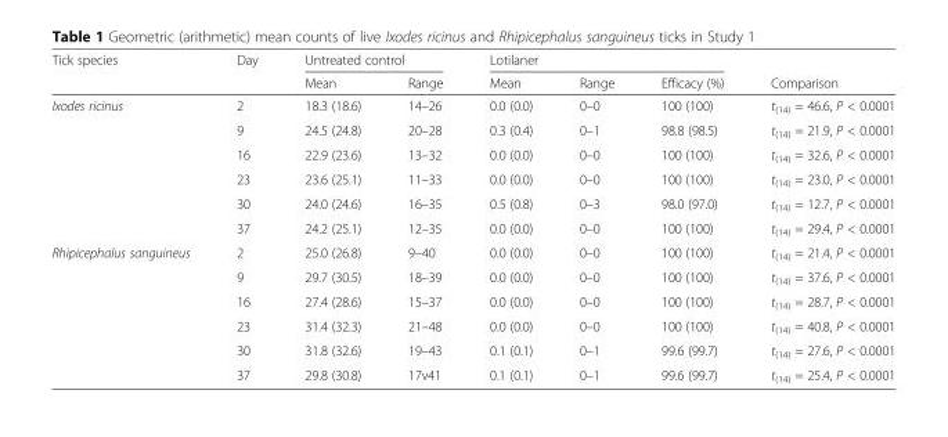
<table><thead><tr><td rowspan="2">Tick species</td><td rowspan="2">Day</td><td colspan="2">Untreated control</td><td colspan="3">Lotilaner</td><td rowspan="2">Comparison</td></tr><tr><td>Mean</td><td>Range</td><td>Mean</td><td>Range</td><td>Efficacy (%)</td></tr></thead><tbody><tr><td rowspan="6">Ixodes ricinus</td><td>2</td><td>18.3 (18.6)</td><td>14–26</td><td>0.0 (0.0)</td><td>0–0</td><td>100 (100)</td><td>t<sub>(14)</sub> = 46.6, P &lt; 0.0001</td></tr><tr><td>9</td><td>24.5 (24.8)</td><td>20–28</td><td>0.3 (0.4)</td><td>0–1</td><td>98.8 (98.5)</td><td>t<sub>(14)</sub> = 21.9, P &lt; 0.0001</td></tr><tr><td>16</td><td>22.9 (23.6)</td><td>13–32</td><td>0.0 (0.0)</td><td>0–0</td><td>100 (100)</td><td>t<sub>(14)</sub> = 32.6, P &lt; 0.0001</td></tr><tr><td>23</td><td>23.6 (25.1)</td><td>11–33</td><td>0.0 (0.0)</td><td>0–0</td><td>100 (100)</td><td>t<sub>(14)</sub> = 23.0, P &lt; 0.0001</td></tr><tr><td>30</td><td>24.0 (24.6)</td><td>16–35</td><td>0.5 (0.8)</td><td>0–3</td><td>98.0 (97.0)</td><td>t<sub>(14)</sub> = 12.7, P &lt; 0.0001</td></tr><tr><td>37</td><td>24.2 (25.1)</td><td>12–35</td><td>0.0 (0.0)</td><td>0–0</td><td>100 (100)</td><td>t<sub>(14)</sub> = 29.4, P &lt; 0.0001</td></tr><tr><td rowspan="6">Rhipicephalus sanguineus</td><td>2</td><td>25.0 (26.8)</td><td>9–40</td><td>0.0 (0.0)</td><td>0–0</td><td>100 (100)</td><td>t<sub>(14)</sub> = 21.4, P &lt; 0.0001</td></tr><tr><td>9</td><td>29.7 (30.5)</td><td>18–39</td><td>0.0 (0.0)</td><td>0–0</td><td>100 (100)</td><td>t<sub>(14)</sub> = 37.6, P &lt; 0.0001</td></tr><tr><td>16</td><td>27.4 (28.6)</td><td>15–37</td><td>0.0 (0.0)</td><td>0–0</td><td>100 (100)</td><td>t<sub>(14)</sub> = 28.7, P &lt; 0.0001</td></tr><tr><td>23</td><td>31.4 (32.3)</td><td>21–48</td><td>0.0 (0.0)</td><td>0–0</td><td>100 (100)</td><td>t<sub>(14)</sub> = 40.8, P &lt; 0.0001</td></tr><tr><td>30</td><td>31.8 (32.6)</td><td>19–43</td><td>0.1 (0.1)</td><td>0–1</td><td>99.6 (99.7)</td><td>t<sub>(14)</sub> = 27.6, P &lt; 0.0001</td></tr><tr><td>37</td><td>29.8 (30.8)</td><td>17v41</td><td>0.1 (0.1)</td><td>0–1</td><td>99.6 (99.7)</td><td>t<sub>(14)</sub> = 25.4, P &lt; 0.0001</td></tr></tbody></table>